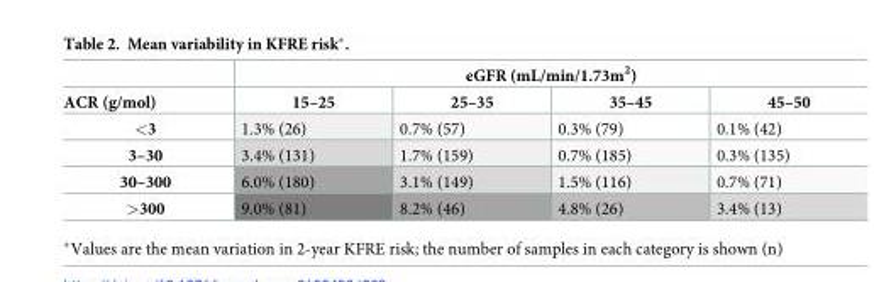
<table><thead><tr><td rowspan="2">ACR (g/mol)</td><td colspan="4">eGFR (mL/min/1.73m<sup>2</sup>)</td></tr><tr><td>15–25</td><td>25–35</td><td>35–45</td><td>45–50</td></tr></thead><tbody><tr><td>&lt;3</td><td>1.3% (26)</td><td>0.7% (57)</td><td>0.3% (79)</td><td>0.1% (42)</td></tr><tr><td>3–30</td><td>3.4% (131)</td><td>1.7% (159)</td><td>0.7% (185)</td><td>0.3% (135)</td></tr><tr><td>30–300</td><td>6.0% (180)</td><td>3.1% (149)</td><td>1.5% (116)</td><td>0.7% (71)</td></tr><tr><td>&gt;300</td><td>9.0% (81)</td><td>8.2% (46)</td><td>4.8% (26)</td><td>3.4% (13)</td></tr></tbody></table>